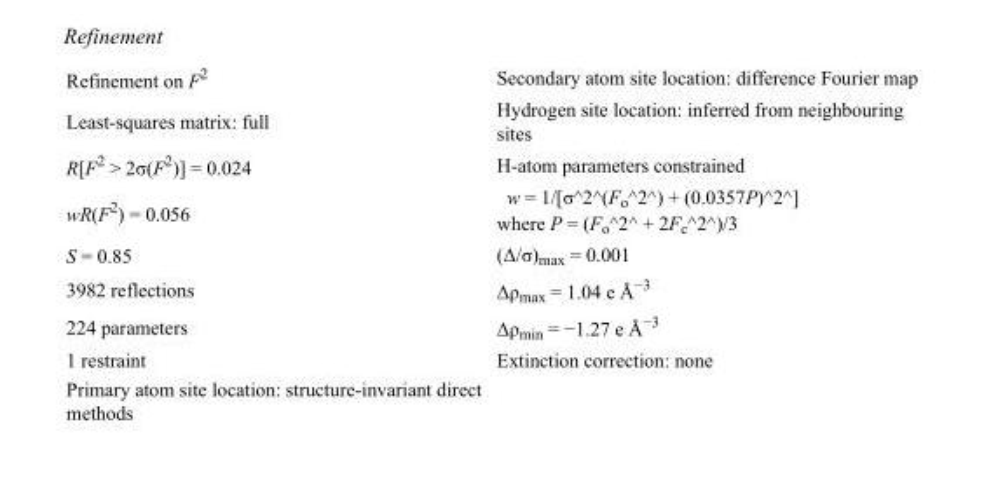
<table><tbody><tr><td>Refinement on F<sup>2</sup></td><td>Secondary atom site location: difference Fourier map</td></tr><tr><td>Least-squares matrix: full</td><td>Hydrogen site location: inferred from neighbouring sites</td></tr><tr><td>R[F<sup>2</sup> &gt; 2σ(F<sup>2</sup>)] = 0.024</td><td>H-atom parameters constrained</td></tr><tr><td>wR(F<sup>2</sup>) = 0.056</td><td>w = 1/[σ^2^(F<sub>o</sub>^2^) + (0.0357P)^2^] where P = (F<sub>o</sub>^2^ + 2F<sub>c</sub>^2^)/3</td></tr><tr><td>S = 0.85</td><td>(Δ/σ)<sub>max</sub> = 0.001</td></tr><tr><td>3982 reflections</td><td>Δρ<sub>max</sub> = 1.04 e Å<sup>−3</sup></td></tr><tr><td>224 parameters</td><td>Δρ<sub>min</sub> = −1.27 e Å<sup>−3</sup></td></tr><tr><td>1 restraint</td><td>Extinction correction: none</td></tr><tr><td>Primary atom site location: structure-invariant direct methods</td><td></td></tr></tbody></table>